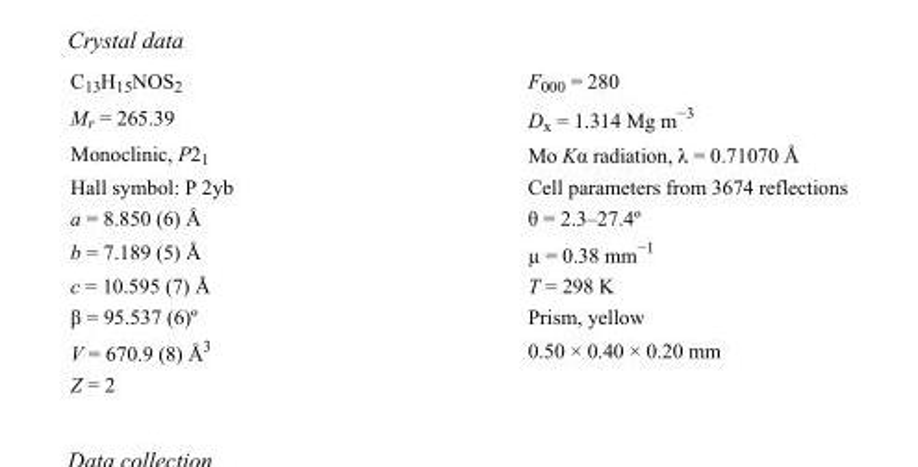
<table><tbody><tr><td>C<sub>13</sub>H<sub>15</sub>NOS<sub>2</sub></td><td>F000 = 280</td></tr><tr><td>M<sub>r</sub> = 265.39</td><td>D<sub>x</sub> = 1.314 Mg m<sup>−3</sup></td></tr><tr><td>Monoclinic, P2<sub>1</sub></td><td>Mo Kα radiation, λ = 0.71070 Å</td></tr><tr><td>Hall symbol: P 2yb</td><td>Cell parameters from 3674 reflections</td></tr><tr><td>a = 8.850 (6) Å</td><td>θ = 2.3–27.4º</td></tr><tr><td>b = 7.189 (5) Å</td><td>µ = 0.38 mm<sup>−1</sup></td></tr><tr><td>c = 10.595 (7) Å</td><td>T = 298 K</td></tr><tr><td>β = 95.537 (6)º</td><td>Prism, yellow</td></tr><tr><td>V = 670.9 (8) Å<sup>3</sup></td><td>0.50 × 0.40 × 0.20 mm</td></tr><tr><td>Z = 2</td><td></td></tr></tbody></table>